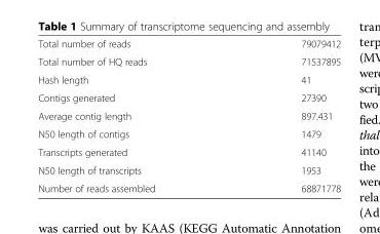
<table><tbody><tr><td>Total number of reads</td><td>79079412</td></tr><tr><td>Total number of HQ reads</td><td>71537895</td></tr><tr><td>Hash length</td><td>41</td></tr><tr><td>Contigs generated</td><td>27390</td></tr><tr><td>Average contig length</td><td>897.431</td></tr><tr><td>N50 length of contigs</td><td>1479</td></tr><tr><td>Transcripts generated</td><td>41140</td></tr><tr><td>N50 length of transcripts</td><td>1953</td></tr><tr><td>Number of reads assembled</td><td>68871778</td></tr></tbody></table>